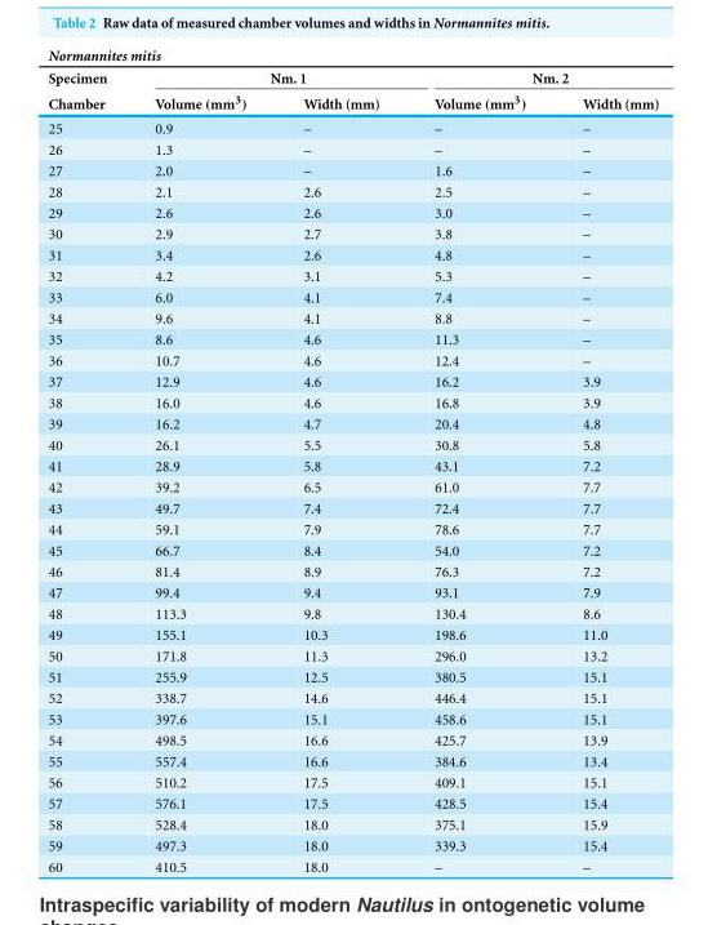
<table><thead><tr><td colspan="5">Normannites mitis</td></tr><tr><td rowspan="2">Specimen Chamber</td><td colspan="2">Nm. 1</td><td colspan="2">Nm. 2</td></tr><tr><td>Volume (mm<sup>3</sup>)</td><td>Width (mm)</td><td>Volume (mm<sup>3</sup>)</td><td>Width (mm)</td></tr></thead><tbody><tr><td>25</td><td>0.9</td><td>–</td><td>–</td><td>–</td></tr><tr><td>26</td><td>1.3</td><td>–</td><td>–</td><td>–</td></tr><tr><td>27</td><td>2.0</td><td>–</td><td>1.6</td><td>–</td></tr><tr><td>28</td><td>2.1</td><td>2.6</td><td>2.5</td><td>–</td></tr><tr><td>29</td><td>2.6</td><td>2.6</td><td>3.0</td><td>–</td></tr><tr><td>30</td><td>2.9</td><td>2.7</td><td>3.8</td><td>–</td></tr><tr><td>31</td><td>3.4</td><td>2.6</td><td>4.8</td><td>–</td></tr><tr><td>32</td><td>4.2</td><td>3.1</td><td>5.3</td><td>–</td></tr><tr><td>33</td><td>6.0</td><td>4.1</td><td>7.4</td><td>–</td></tr><tr><td>34</td><td>9.6</td><td>4.1</td><td>8.8</td><td>–</td></tr><tr><td>35</td><td>8.6</td><td>4.6</td><td>11.3</td><td>–</td></tr><tr><td>36</td><td>10.7</td><td>4.6</td><td>12.4</td><td>–</td></tr><tr><td>37</td><td>12.9</td><td>4.6</td><td>16.2</td><td>3.9</td></tr><tr><td>38</td><td>16.0</td><td>4.6</td><td>16.8</td><td>3.9</td></tr><tr><td>39</td><td>16.2</td><td>4.7</td><td>20.4</td><td>4.8</td></tr><tr><td>40</td><td>26.1</td><td>5.5</td><td>30.8</td><td>5.8</td></tr><tr><td>41</td><td>28.9</td><td>5.8</td><td>43.1</td><td>7.2</td></tr><tr><td>42</td><td>39.2</td><td>6.5</td><td>61.0</td><td>7.7</td></tr><tr><td>43</td><td>49.7</td><td>7.4</td><td>72.4</td><td>7.7</td></tr><tr><td>44</td><td>59.1</td><td>7.9</td><td>78.6</td><td>7.7</td></tr><tr><td>45</td><td>66.7</td><td>8.4</td><td>54.0</td><td>7.2</td></tr><tr><td>46</td><td>81.4</td><td>8.9</td><td>76.3</td><td>7.2</td></tr><tr><td>47</td><td>99.4</td><td>9.4</td><td>93.1</td><td>7.9</td></tr><tr><td>48</td><td>113.3</td><td>9.8</td><td>130.4</td><td>8.6</td></tr><tr><td>49</td><td>155.1</td><td>10.3</td><td>198.6</td><td>11.0</td></tr><tr><td>50</td><td>171.8</td><td>11.3</td><td>296.0</td><td>13.2</td></tr><tr><td>51</td><td>255.9</td><td>12.5</td><td>380.5</td><td>15.1</td></tr><tr><td>52</td><td>338.7</td><td>14.6</td><td>446.4</td><td>15.1</td></tr><tr><td>53</td><td>397.6</td><td>15.1</td><td>458.6</td><td>15.1</td></tr><tr><td>54</td><td>498.5</td><td>16.6</td><td>425.7</td><td>13.9</td></tr><tr><td>55</td><td>557.4</td><td>16.6</td><td>384.6</td><td>13.4</td></tr><tr><td>56</td><td>510.2</td><td>17.5</td><td>409.1</td><td>15.1</td></tr><tr><td>57</td><td>576.1</td><td>17.5</td><td>428.5</td><td>15.4</td></tr><tr><td>58</td><td>528.4</td><td>18.0</td><td>375.1</td><td>15.9</td></tr><tr><td>59</td><td>497.3</td><td>18.0</td><td>339.3</td><td>15.4</td></tr><tr><td>60</td><td>410.5</td><td>18.0</td><td>–</td><td>–</td></tr></tbody></table>